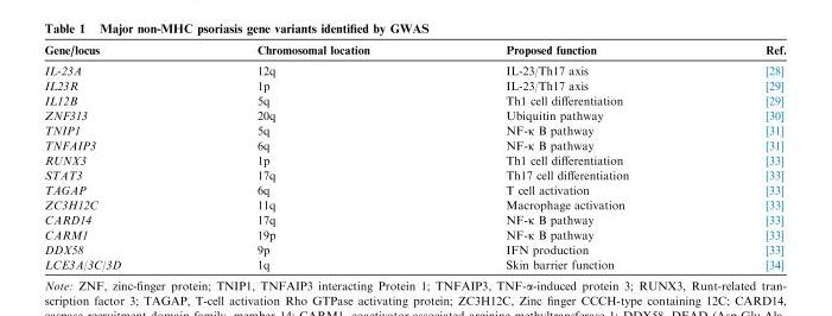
<table><thead><tr><td>Gene/locus</td><td>Chromosomal location</td><td>Proposed function</td><td>Ref.</td></tr></thead><tbody><tr><td>IL-23A</td><td>12q</td><td>IL-23/Th17 axis</td><td>[28]</td></tr><tr><td>IL23R</td><td>1p</td><td>IL-23/Th17 axis</td><td>[29]</td></tr><tr><td>IL12B</td><td>5q</td><td>Th1 cell differentiation</td><td>[29]</td></tr><tr><td>ZNF313</td><td>20q</td><td>Ubiquitin pathway</td><td>[30]</td></tr><tr><td>TNIP1</td><td>5q</td><td>NF-κ B pathway</td><td>[31]</td></tr><tr><td>TNFAIP3</td><td>6q</td><td>NF-κ B pathway</td><td>[31]</td></tr><tr><td>RUNX3</td><td>1p</td><td>Th1 cell differentiation</td><td>[33]</td></tr><tr><td>STAT3</td><td>17q</td><td>Th17 cell differentiation</td><td>[33]</td></tr><tr><td>TAGAP</td><td>6q</td><td>T cell activation</td><td>[33]</td></tr><tr><td>ZC3H12C</td><td>11q</td><td>Macrophage activation</td><td>[33]</td></tr><tr><td>CARD14</td><td>17q</td><td>NF-κ B pathway</td><td>[33]</td></tr><tr><td>CARM1</td><td>19p</td><td>NF-κ B pathway</td><td>[33]</td></tr><tr><td>DDX58</td><td>9p</td><td>IFN production</td><td>[33]</td></tr><tr><td>LCE3A/3C/3D</td><td>1q</td><td>Skin barrier function</td><td>[34]</td></tr></tbody></table>